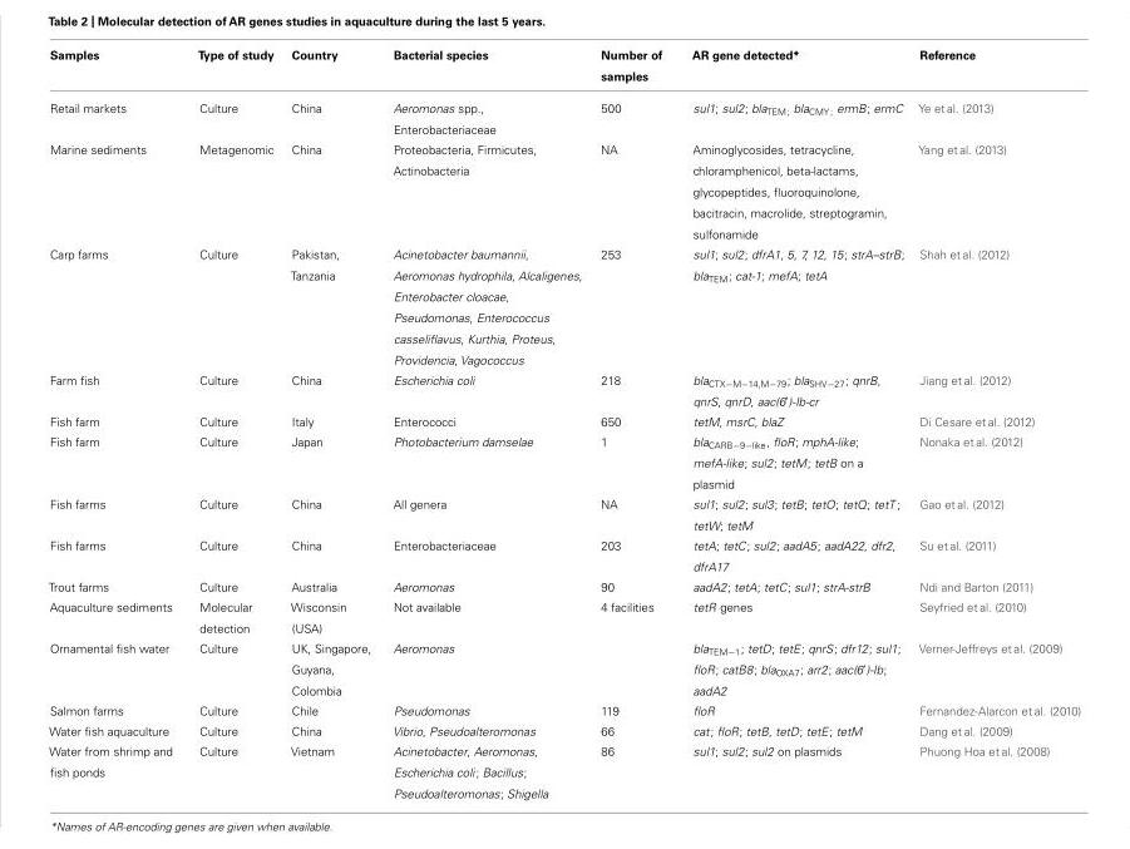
<table><thead><tr><td>Samples</td><td>Type of study</td><td>Country</td><td>Bacterial species</td><td>Number of samples</td><td>AR gene detected*</td><td>Reference</td></tr></thead><tbody><tr><td>Retail markets</td><td>Culture</td><td>China</td><td>Aeromonas spp., Enterobacteriaceae</td><td>500</td><td>sul1; sul2; bla<sub>TEM;</sub> bla<sub>CMY;</sub> ermB; ermC</td><td>Ye et al. (2013)</td></tr><tr><td>Marine sediments</td><td>Metagenomic</td><td>China</td><td>Proteobacteria, Firmicutes, Actinobacteria</td><td>NA</td><td>Aminoglycosides, tetracycline, chloramphenicol, beta-lactams, glycopeptides, fluoroquinolone, bacitracin, macrolide, streptogramin, sulfonamide</td><td>Yang et al. (2013)</td></tr><tr><td>Carp farms</td><td>Culture</td><td>Pakistan, Tanzania</td><td>Acinetobacter baumannii, Aeromonas hydrophila, Alcaligenes, Enterobacter cloacae, Pseudomonas, Enterococcus casseliflavus, Kurthia, Proteus, Providencia, Vagococcus</td><td>253</td><td>sul1; sul2; dfrA1, 5, 7, 12, 15; strA–strB; blaTEM; cat-1; mefA; tetA</td><td>Shah et al. (2012)</td></tr><tr><td>Farm fish</td><td>Culture</td><td>China</td><td>Escherichia coli</td><td>218</td><td>bla<sub>CTX−M−14,M−79</sub>; bla<sub>SHV−27</sub>; qnrB, qnrS, qnrD, aac(6<sup>′</sup>)-Ib-cr</td><td>Jiang et al. (2012)</td></tr><tr><td>Fish farm</td><td>Culture</td><td>Italy</td><td>Enterococci</td><td>650</td><td>tetM, msrC, blaZ</td><td>Di Cesare et al. (2012)</td></tr><tr><td>Fish farm</td><td>Culture</td><td>Japan</td><td>Photobacterium damselae</td><td>1</td><td>bla<sub>CARB−9−like</sub>, floR; mphA-like; mefA-like; sul2; tetM; tetB on a plasmid</td><td>Nonaka et al. (2012)</td></tr><tr><td>Fish farms</td><td>Culture</td><td>China</td><td>All genera</td><td>NA</td><td>sul1; sul2; sul3; tetB; tetO; tetQ; tetT ; tetW; tetM</td><td>Gao et al. (2012)</td></tr><tr><td>Fish farms</td><td>Culture</td><td>China</td><td>Enterobacteriaceae</td><td>203</td><td>tetA; tetC; sul2; aadA5; aadA22, dfr2, dfrA17</td><td>Su et al. (2011)</td></tr><tr><td>Trout farms</td><td>Culture</td><td>Australia</td><td>Aeromonas</td><td>90</td><td>aadA2; tetA; tetC; sul1; strA-strB</td><td>Ndi and Barton (2011)</td></tr><tr><td>Aquaculture sediments</td><td>Molecular detection</td><td>Wisconsin (USA)</td><td>Not available</td><td>4 facilities</td><td>tetR genes</td><td>Seyfried et al. (2010)</td></tr><tr><td>Ornamental fish water</td><td>Culture</td><td>UK, Singapore, Guyana, Colombia</td><td>Aeromonas</td><td></td><td>blaTEM−1; tetD; tetE; qnrS; dfr12; sul1; floR; catB8; blaOXA7; arr2; aac(6′)-Ib; aadA2</td><td>Verner-Jeffreys et al. (2009)</td></tr><tr><td>Salmon farms</td><td>Culture</td><td>Chile</td><td>Pseudomonas</td><td>119</td><td>floR</td><td>Fernandez-Alarcon et al. (2010)</td></tr><tr><td>Water fish aquaculture</td><td>Culture</td><td>China</td><td>Vibrio, Pseudoalteromonas</td><td>66</td><td>cat; floR; tetB, tetD; tetE; tetM</td><td>Dang et al. (2009)</td></tr><tr><td>Water from shrimp and fish ponds</td><td>Culture</td><td>Vietnam</td><td>Acinetobacter, Aeromonas, Escherichia coli; Bacillus; Pseudoalteromonas; Shigella</td><td>86</td><td>sul1; sul2; sul2 on plasmids</td><td>Phuong Hoa et al. (2008)</td></tr></tbody></table>